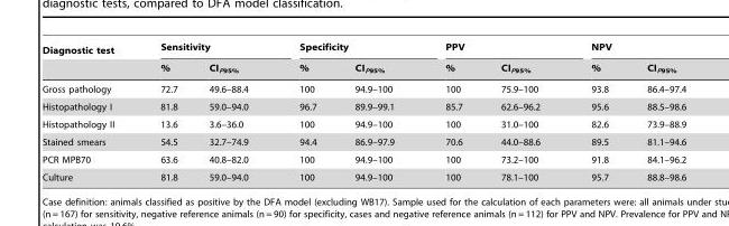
<table><thead><tr><td rowspan="2">Diagnostic test</td><td colspan="2">Sensitivity</td><td colspan="2">Specificity</td><td colspan="2">PPV</td><td colspan="2">NPV</td></tr><tr><td>%</td><td>CI<sub>P95%</sub></td><td>%</td><td>CI<sub>P95%</sub></td><td>%</td><td>CI<sub>P95%</sub></td><td>%</td><td>CI<sub>P95%</sub></td></tr></thead><tbody><tr><td>Gross pathology</td><td>72.7</td><td>49.6–88.4</td><td>100</td><td>94.9–100</td><td>100</td><td>75.9–100</td><td>93.8</td><td>86.4–97.4</td></tr><tr><td>Histopathology I</td><td>81.8</td><td>59.0–94.0</td><td>96.7</td><td>89.9–99.1</td><td>85.7</td><td>62.6–96.2</td><td>95.6</td><td>88.5–98.6</td></tr><tr><td>Histopathology II</td><td>13.6</td><td>3.6–36.0</td><td>100</td><td>94.9–100</td><td>100</td><td>31.0–100</td><td>82.6</td><td>73.9–88.9</td></tr><tr><td>Stained smears</td><td>54.5</td><td>32.7–74.9</td><td>94.4</td><td>86.9–97.9</td><td>70.6</td><td>44.0–88.6</td><td>89.5</td><td>81.1–94.6</td></tr><tr><td>PCR MPB70</td><td>63.6</td><td>40.8–82.0</td><td>100</td><td>94.9–100</td><td>100</td><td>73.2–100</td><td>91.8</td><td>84.1–96.2</td></tr><tr><td>Culture</td><td>81.8</td><td>59.0–94.0</td><td>100</td><td>94.9–100</td><td>100</td><td>78.1–100</td><td>95.7</td><td>88.8–98.6</td></tr></tbody></table>